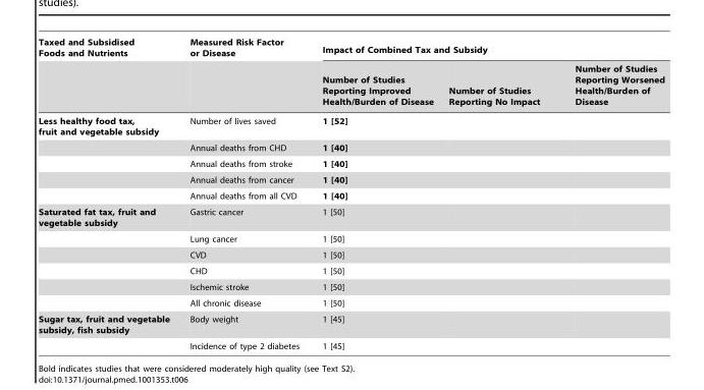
<table><thead><tr><td rowspan="2">Taxed and Subsidised Foods and Nutrients</td><td rowspan="2">Measured Risk Factor or Disease</td><td colspan="3">Impact of Combined Tax and Subsidy</td></tr><tr><td>Number of Studies Reporting Improved Health/Burden of Disease</td><td>Number of Studies Reporting No Impact</td><td>Number of Studies Reporting Worsened Health/Burden of Disease</td></tr></thead><tbody><tr><td rowspan="5">Less healthy food tax, fruit and vegetable subsidy</td><td>Number of lives saved</td><td>1 [52]</td><td></td><td></td></tr><tr><td>Annual deaths from CHD</td><td>1 [40]</td><td></td><td></td></tr><tr><td>Annual deaths from stroke</td><td>1 [40]</td><td></td><td></td></tr><tr><td>Annual deaths from cancer</td><td>1 [40]</td><td></td><td></td></tr><tr><td>Annual deaths from all CVD</td><td>1 [40]</td><td></td><td></td></tr><tr><td rowspan="6">Saturated fat tax, fruit and vegetable subsidy</td><td>Gastric cancer</td><td>1 [50]</td><td></td><td></td></tr><tr><td>Lung cancer</td><td>1 [50]</td><td></td><td></td></tr><tr><td>CVD</td><td>1 [50]</td><td></td><td></td></tr><tr><td>CHD</td><td>1 [50]</td><td></td><td></td></tr><tr><td>Ischemic stroke</td><td>1 [50]</td><td></td><td></td></tr><tr><td>All chronic disease</td><td>1 [50]</td><td></td><td></td></tr><tr><td rowspan="2">Sugar tax, fruit and vegetable subsidy, fish subsidy</td><td>Body weight</td><td>1 [45]</td><td></td><td></td></tr><tr><td>Incidence of type 2 diabetes</td><td>1 [45]</td><td></td><td></td></tr></tbody></table>